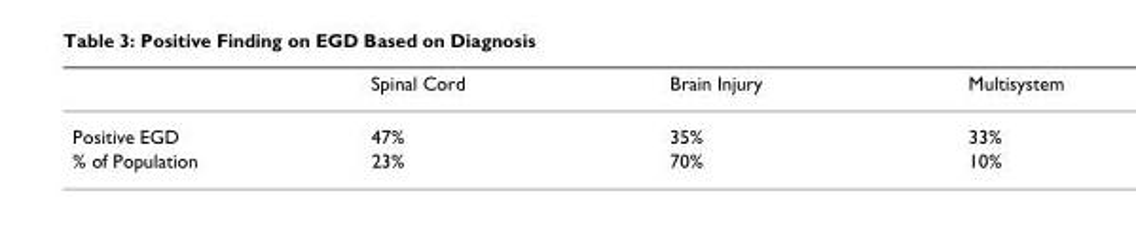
<table><thead><tr><td></td><td>Spinal Cord</td><td>Brain Injury</td><td>Multisystem</td></tr></thead><tbody><tr><td>Positive EGD</td><td>47%</td><td>35%</td><td>33%</td></tr><tr><td>% of Population</td><td>23%</td><td>70%</td><td>10%</td></tr></tbody></table>